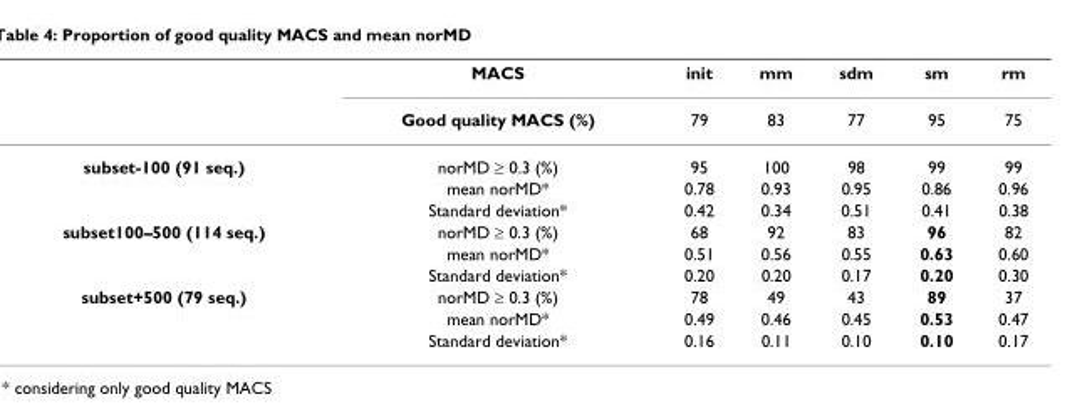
<table><thead><tr><td rowspan="2"></td><td rowspan="2">MACS Good quality MACS (%)</td><td rowspan="2">init 79</td><td rowspan="2">mm 83</td><td rowspan="2">sdm 77</td><td rowspan="2">sm 95</td><td rowspan="2">rm 75</td></tr><tr></tr></thead><tbody><tr><td rowspan="3">subset-100 (91 seq.)</td><td>norMD ≥ 0.3 (%)</td><td>95</td><td>100</td><td>98</td><td>99</td><td>99</td></tr><tr><td>mean norMD*</td><td>0.78</td><td>0.93</td><td>0.95</td><td>0.86</td><td>0.96</td></tr><tr><td>Standard deviation*</td><td>0.42</td><td>0.34</td><td>0.51</td><td>0.41</td><td>0.38</td></tr><tr><td rowspan="3">subset100–500 (114 seq.)</td><td>norMD ≥ 0.3 (%)</td><td>68</td><td>92</td><td>83</td><td>96</td><td>82</td></tr><tr><td>mean norMD*</td><td>0.51</td><td>0.56</td><td>0.55</td><td>0.63</td><td>0.60</td></tr><tr><td>Standard deviation*</td><td>0.20</td><td>0.20</td><td>0.17</td><td>0.20</td><td>0.30</td></tr><tr><td rowspan="3">subset+500 (79 seq.)</td><td>norMD ≥ 0.3 (%)</td><td>78</td><td>49</td><td>43</td><td>89</td><td>37</td></tr><tr><td>mean norMD*</td><td>0.49</td><td>0.46</td><td>0.45</td><td>0.53</td><td>0.47</td></tr><tr><td>Standard deviation*</td><td>0.16</td><td>0.11</td><td>0.10</td><td>0.10</td><td>0.17</td></tr></tbody></table>